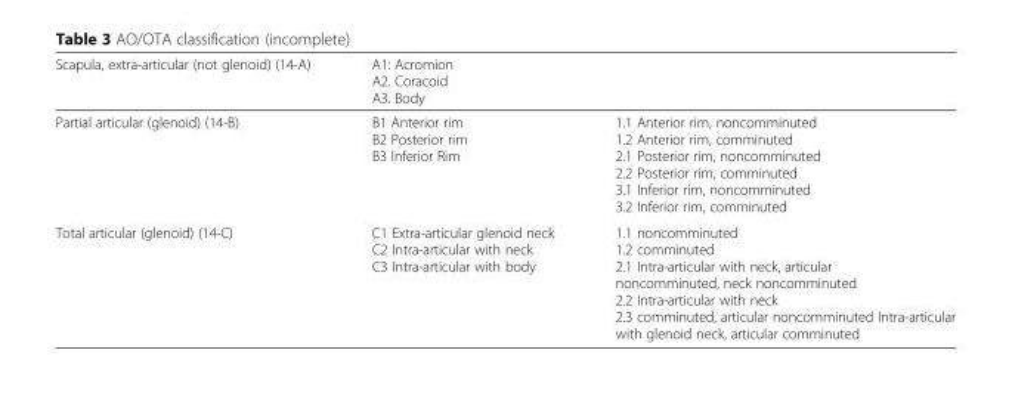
<table><thead><tr><td>Scapula, extra-articular (not glenoid) (14-A)</td><td>A1: Acromion A2. Coracoid A3. Body</td><td></td></tr></thead><tbody><tr><td>Partial articular (glenoid) (14-B)</td><td>B1 Anterior rim B2 Posterior rim B3 Inferior Rim</td><td>1.1 Anterior rim, noncomminuted 1.2 Anterior rim, comminuted 2.1 Posterior rim, noncomminuted 2.2 Posterior rim, comminuted 3.1 Inferior rim, noncomminuted 3.2 Inferior rim, comminuted</td></tr><tr><td>Total articular (glenoid) (14-C)</td><td>C1 Extra-articular glenoid neck C2 Intra-articular with neck C3 Intra-articular with body</td><td>1.1 noncomminuted 1.2 comminuted 2.1 Intra-articular with neck, articular noncomminuted, neck noncomminuted 2.2 Intra-articular with neck 2.3 comminuted, articular noncomminuted Intra-articular with glenoid neck, articular comminuted</td></tr></tbody></table>